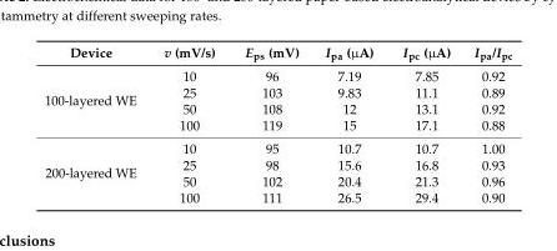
<table><thead><tr><td>Device</td><td>v (mV/s)</td><td>E<sub>ps</sub> (mV)</td><td>I<sub>pa</sub> (µA)</td><td>I<sub>pc</sub> (µA)</td><td>I<sub>pa</sub>/I<sub>pc</sub></td></tr></thead><tbody><tr><td rowspan="4">100-layered WE</td><td>10</td><td>96</td><td>7.19</td><td>7.85</td><td>0.92</td></tr><tr><td>25</td><td>103</td><td>9.83</td><td>11.1</td><td>0.89</td></tr><tr><td>50</td><td>108</td><td>12</td><td>13.1</td><td>0.92</td></tr><tr><td>100</td><td>119</td><td>15</td><td>17.1</td><td>0.88</td></tr><tr><td rowspan="4">200-layered WE</td><td>10</td><td>95</td><td>10.7</td><td>10.7</td><td>1.00</td></tr><tr><td>25</td><td>98</td><td>15.6</td><td>16.8</td><td>0.93</td></tr><tr><td>50</td><td>102</td><td>20.4</td><td>21.3</td><td>0.96</td></tr><tr><td>100</td><td>111</td><td>26.5</td><td>29.4</td><td>0.90</td></tr></tbody></table>